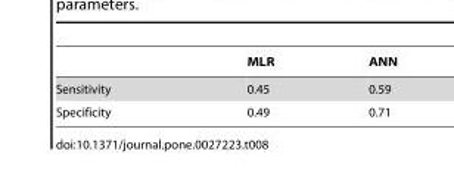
<table><thead><tr><td></td><td>MLR</td><td>ANN</td></tr></thead><tbody><tr><td>Sensitivity</td><td>0.45</td><td>0.59</td></tr><tr><td>Specificity</td><td>0.49</td><td>0.71</td></tr></tbody></table>